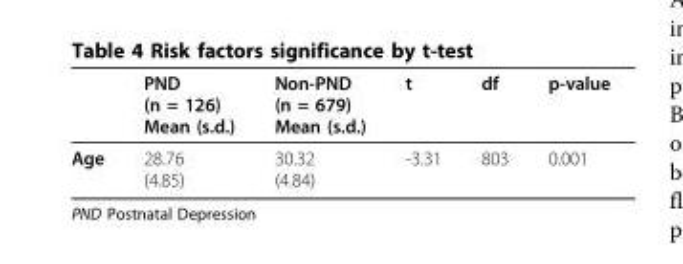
<table><thead><tr><td></td><td>PND (n = 126) Mean (s.d.)</td><td>Non-PND (n = 679) Mean (s.d.)</td><td>t</td><td>df</td><td>p-value</td></tr></thead><tbody><tr><td>Age</td><td>28.76 (4.85)</td><td>30.32 (4.84)</td><td>-3.31</td><td>803</td><td>0.001</td></tr></tbody></table>